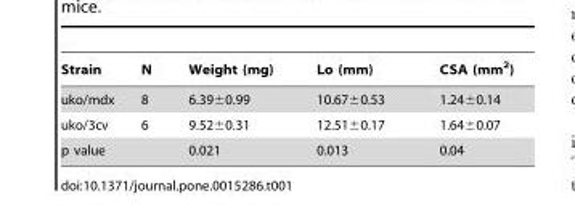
<table><thead><tr><td>Strain</td><td>N</td><td>Weight (mg)</td><td>Lo (mm)</td><td>CSA (mm<sup>2</sup>)</td></tr></thead><tbody><tr><td>uko/mdx</td><td>8</td><td>6.39±0.99</td><td>10.67±0.53</td><td>1.24±0.14</td></tr><tr><td>uko/3cv</td><td>6</td><td>9.52±0.31</td><td>12.51±0.17</td><td>1.64±0.07</td></tr><tr><td>p value</td><td></td><td>0.021</td><td>0.013</td><td>0.04</td></tr></tbody></table>